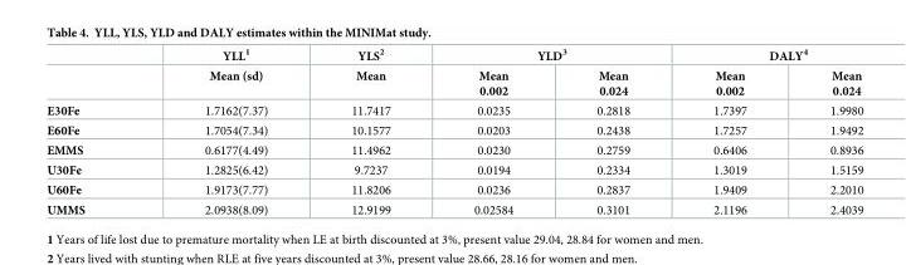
<table><thead><tr><td rowspan="2"></td><td rowspan="2">YLL<sup>1</sup> Mean (sd)</td><td rowspan="2">YLS<sup>2</sup> Mean</td><td colspan="2">YLD<sup>3</sup></td><td colspan="2">DALY<sup>4</sup></td></tr><tr><td>Mean 0.002</td><td>Mean 0.024</td><td>Mean 0.002</td><td>Mean 0.024</td></tr></thead><tbody><tr><td>E30Fe</td><td>1.7162(7.37)</td><td>11.7417</td><td>0.0235</td><td>0.2818</td><td>1.7397</td><td>1.9980</td></tr><tr><td>E60Fe</td><td>1.7054(7.34)</td><td>10.1577</td><td>0.0203</td><td>0.2438</td><td>1.7257</td><td>1.9492</td></tr><tr><td>EMMS</td><td>0.6177(4.49)</td><td>11.4962</td><td>0.0230</td><td>0.2759</td><td>0.6406</td><td>0.8936</td></tr><tr><td>U30Fe</td><td>1.2825(6.42)</td><td>9.7237</td><td>0.0194</td><td>0.2334</td><td>1.3019</td><td>1.5159</td></tr><tr><td>U60Fe</td><td>1.9173(7.77)</td><td>11.8206</td><td>0.0236</td><td>0.2837</td><td>1.9409</td><td>2.2010</td></tr><tr><td>UMMS</td><td>2.0938(8.09)</td><td>12.9199</td><td>0.02584</td><td>0.3101</td><td>2.1196</td><td>2.4039</td></tr></tbody></table>